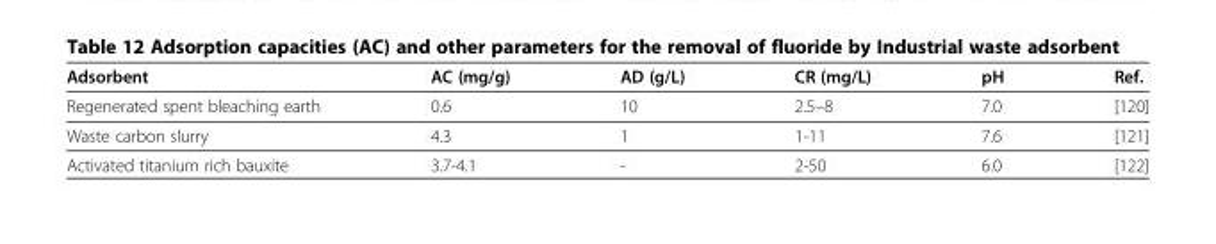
<table><thead><tr><td>Adsorbent</td><td>AC (mg/g)</td><td>AD (g/L)</td><td>CR (mg/L)</td><td>pH</td><td>Ref.</td></tr></thead><tbody><tr><td>Regenerated spent bleaching earth</td><td>0.6</td><td>10</td><td>2.5–8</td><td>7.0</td><td>[120]</td></tr><tr><td>Waste carbon slurry</td><td>4.3</td><td>1</td><td>1-11</td><td>7.6</td><td>[121]</td></tr><tr><td>Activated titanium rich bauxite</td><td>3.7-4.1</td><td>-</td><td>2-50</td><td>6.0</td><td>[122]</td></tr></tbody></table>